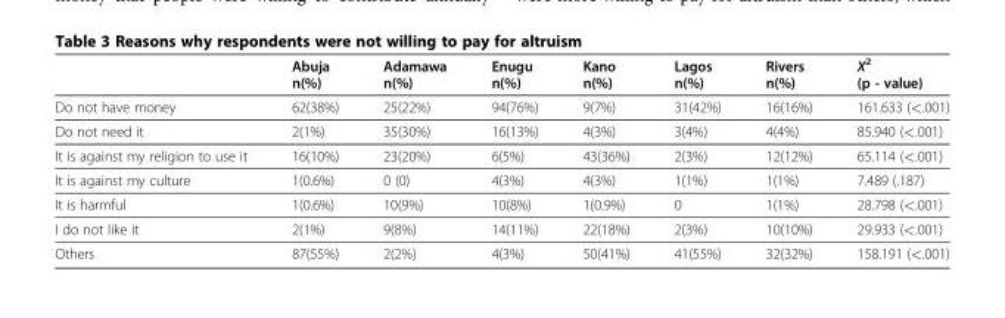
<table><thead><tr><td></td><td>Abuja n(%)</td><td>Adamawa n(%)</td><td>Enugu n(%)</td><td>Kano n(%)</td><td>Lagos n(%)</td><td>Rivers n(%)</td><td>X<sup>2</sup> (p - value)</td></tr></thead><tbody><tr><td>Do not have money</td><td>62(38%)</td><td>25(22%)</td><td>94(76%)</td><td>9(7%)</td><td>31(42%)</td><td>16(16%)</td><td>161.633 (&lt;.001)</td></tr><tr><td>Do not need it</td><td>2(1%)</td><td>35(30%)</td><td>16(13%)</td><td>4(3%)</td><td>3(4%)</td><td>4(4%)</td><td>85.940 (&lt;.001)</td></tr><tr><td>It is against my religion to use it</td><td>16(10%)</td><td>23(20%)</td><td>6(5%)</td><td>43(36%)</td><td>2(3%)</td><td>12(12%)</td><td>65.114 (&lt;.001)</td></tr><tr><td>It is against my culture</td><td>1(0.6%)</td><td>0 (0)</td><td>4(3%)</td><td>4(3%)</td><td>1(1%)</td><td>1(1%)</td><td>7.489 (.187)</td></tr><tr><td>It is harmful</td><td>1(0.6%)</td><td>10(9%)</td><td>10(8%)</td><td>1(0.9%)</td><td>0</td><td>1(1%)</td><td>28.798 (&lt;.001)</td></tr><tr><td>I do not like it</td><td>2(1%)</td><td>9(8%)</td><td>14(11%)</td><td>22(18%)</td><td>2(3%)</td><td>10(10%)</td><td>29.933 (&lt;.001)</td></tr><tr><td>Others</td><td>87(55%)</td><td>2(2%)</td><td>4(3%)</td><td>50(41%)</td><td>41(55%)</td><td>32(32%)</td><td>158.191 (&lt;.001)</td></tr></tbody></table>